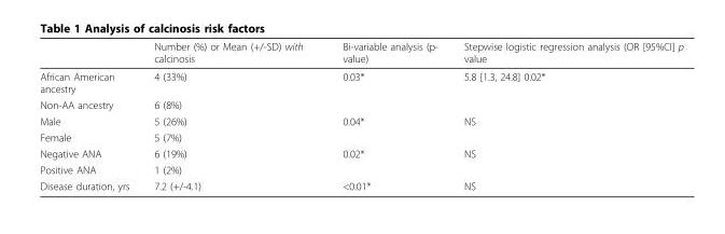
<table><thead><tr><td></td><td>Number (%) or Mean (+/-SD) with calcinosis</td><td>Bi-variable analysis (p- value)</td><td>Stepwise logistic regression analysis (OR [95%CI] p value</td></tr></thead><tbody><tr><td>African American ancestry</td><td>4 (33%)</td><td>0.03*</td><td>5.8 [1.3, 24.8] 0.02*</td></tr><tr><td>Non-AA ancestry</td><td>6 (8%)</td><td></td><td></td></tr><tr><td>Male</td><td>5 (26%)</td><td>0.04*</td><td>NS</td></tr><tr><td>Female</td><td>5 (7%)</td><td></td><td></td></tr><tr><td>Negative ANA</td><td>6 (19%)</td><td>0.02*</td><td>NS</td></tr><tr><td>Positive ANA</td><td>1 (2%)</td><td></td><td></td></tr><tr><td>Disease duration, yrs</td><td>7.2 (+/-4.1)</td><td>&lt;0.01*</td><td>NS</td></tr></tbody></table>